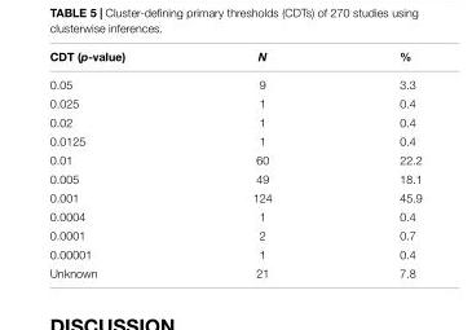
<table><thead><tr><td>CDT (p-value)</td><td>N</td><td>%</td></tr></thead><tbody><tr><td>0.05</td><td>9</td><td>3.3</td></tr><tr><td>0.025</td><td>1</td><td>0.4</td></tr><tr><td>0.02</td><td>1</td><td>0.4</td></tr><tr><td>0.0125</td><td>1</td><td>0.4</td></tr><tr><td>0.01</td><td>60</td><td>22.2</td></tr><tr><td>0.005</td><td>49</td><td>18.1</td></tr><tr><td>0.001</td><td>124</td><td>45.9</td></tr><tr><td>0.0004</td><td>1</td><td>0.4</td></tr><tr><td>0.0001</td><td>2</td><td>0.7</td></tr><tr><td>0.00001</td><td>1</td><td>0.4</td></tr><tr><td>Unknown</td><td>21</td><td>7.8</td></tr></tbody></table>